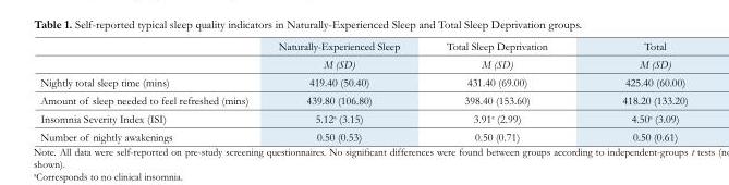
<table><thead><tr><td></td><td>Naturally-Experienced Sleep</td><td>Total Sleep Deprivation</td><td>Total</td></tr></thead><tbody><tr><td></td><td>M (SD)</td><td>M (SD)</td><td>M (SD)</td></tr><tr><td>Nightly total sleep time (mins)</td><td>419.40 (50.40)</td><td>431.40 (69.00)</td><td>425.40 (60.00)</td></tr><tr><td>Amount of sleep needed to feel refreshed (mins)</td><td>439.80 (106.80)</td><td>398.40 (153.60)</td><td>418.20 (133.20)</td></tr><tr><td>Insomnia Severity Index (ISI)</td><td>5.12<sup>a</sup> (3.15)</td><td>3.91<sup>a</sup> (2.99)</td><td>4.50<sup>a</sup> (3.09)</td></tr><tr><td>Number of nightly awakenings</td><td>0.50 (0.53)</td><td>0.50 (0.71)</td><td>0.50 (0.61)</td></tr></tbody></table>